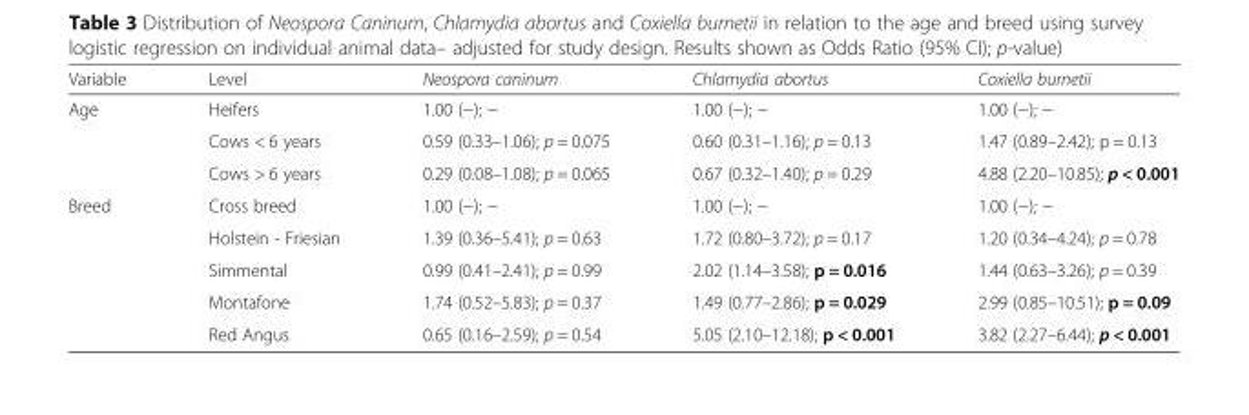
<table><thead><tr><td>Variable</td><td>Level</td><td>Neospora caninum</td><td>Chlamydia abortus</td><td>Coxiella burnetii</td></tr></thead><tbody><tr><td rowspan="3">Age</td><td>Heifers</td><td>1.00 (−); −</td><td>1.00 (−); −</td><td>1.00 (−); −</td></tr><tr><td>Cows &lt; 6 years</td><td>0.59 (0.33–1.06); p = 0.075</td><td>0.60 (0.31–1.16); p = 0.13</td><td>1.47 (0.89–2.42); p = 0.13</td></tr><tr><td>Cows &gt; 6 years</td><td>0.29 (0.08–1.08); p = 0.065</td><td>0.67 (0.32–1.40); p = 0.29</td><td>4.88 (2.20–10.85); p &lt; 0.001</td></tr><tr><td rowspan="5">Breed</td><td>Cross breed</td><td>1.00 (−); −</td><td>1.00 (−); −</td><td>1.00 (−); −</td></tr><tr><td>Holstein - Friesian</td><td>1.39 (0.36–5.41); p = 0.63</td><td>1.72 (0.80–3.72); p = 0.17</td><td>1.20 (0.34–4.24); p = 0.78</td></tr><tr><td>Simmental</td><td>0.99 (0.41–2.41); p = 0.99</td><td>2.02 (1.14–3.58); p = 0.016</td><td>1.44 (0.63–3.26); p = 0.39</td></tr><tr><td>Montafone</td><td>1.74 (0.52–5.83); p = 0.37</td><td>1.49 (0.77–2.86); p = 0.029</td><td>2.99 (0.85–10.51); p = 0.09</td></tr><tr><td>Red Angus</td><td>0.65 (0.16–2.59); p = 0.54</td><td>5.05 (2.10–12.18); p &lt; 0.001</td><td>3.82 (2.27–6.44); p &lt; 0.001</td></tr></tbody></table>